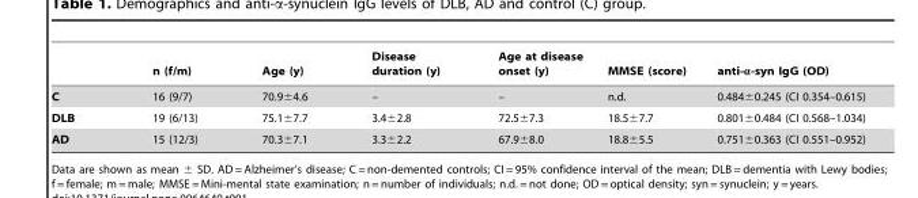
<table><thead><tr><td></td><td>n (f/m)</td><td>Age (y)</td><td>Disease duration (y)</td><td>Age at disease onset (y)</td><td>MMSE (score)</td><td>anti-α-syn IgG (OD)</td></tr></thead><tbody><tr><td>C</td><td>16 (9/7)</td><td>70.9±4.6</td><td>–</td><td>–</td><td>n.d.</td><td>0.484±0.245 (CI 0.354–0.615)</td></tr><tr><td>DLB</td><td>19 (6/13)</td><td>75.1±7.7</td><td>3.4±2.8</td><td>72.5±7.3</td><td>18.5±7.7</td><td>0.801±0.484 (CI 0.568–1.034)</td></tr><tr><td>AD</td><td>15 (12/3)</td><td>70.3±7.1</td><td>3.3±2.2</td><td>67.9±8.0</td><td>18.8±5.5</td><td>0.751±0.363 (CI 0.551–0.952)</td></tr></tbody></table>